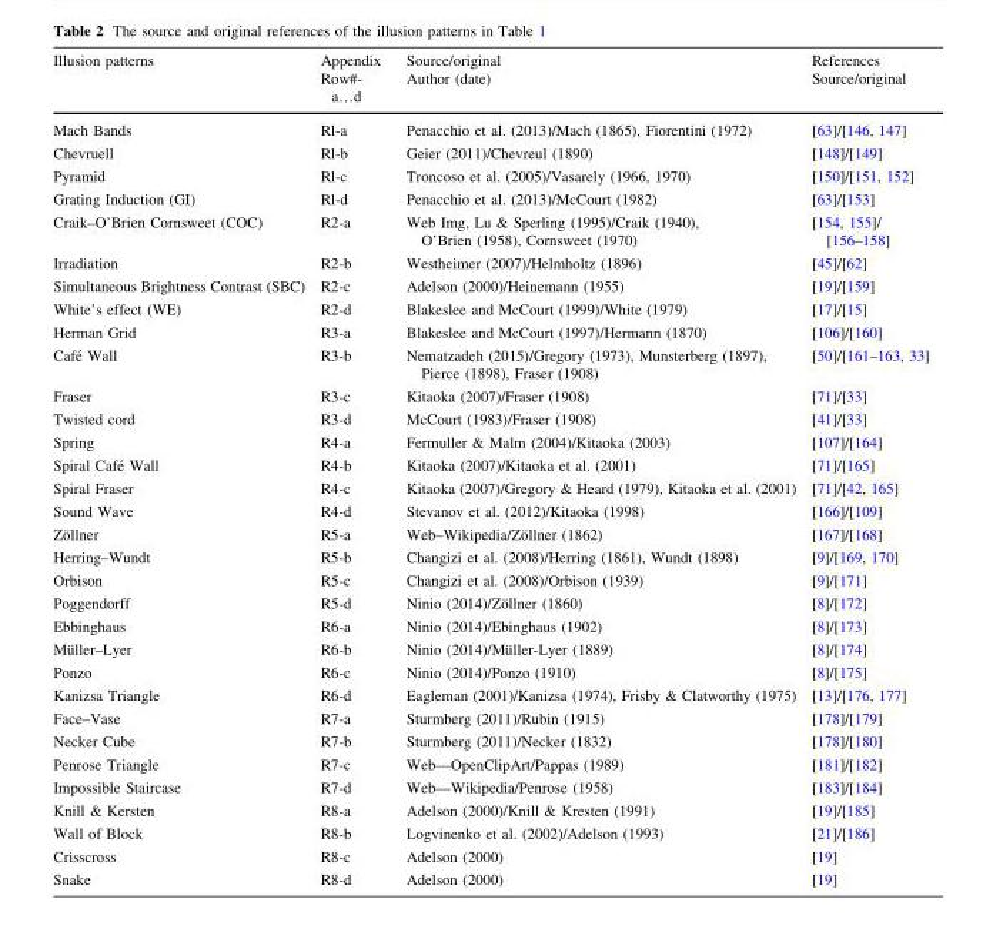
<table><thead><tr><td>Illusion patterns</td><td>Appendix Row#- a…d</td><td>Source/original Author (date)</td><td>References Source/original</td></tr></thead><tbody><tr><td>Mach Bands</td><td>Rl-a</td><td>Penacchio et al. (2013)/Mach (1865), Fiorentini (1972)</td><td>[63]/[146, 147]</td></tr><tr><td>Chevruell</td><td>Rl-b</td><td>Geier (2011)/Chevreul (1890)</td><td>[148]/[149]</td></tr><tr><td>Pyramid</td><td>Rl-c</td><td>Troncoso et al. (2005)/Vasarely (1966, 1970)</td><td>[150]/[151, 152]</td></tr><tr><td>Grating Induction (GI)</td><td>Rl-d</td><td>Penacchio et al. (2013)/McCourt (1982)</td><td>[63]/[153]</td></tr><tr><td>Craik–O’Brien Cornsweet (COC)</td><td>R2-a</td><td>Web Img, Lu &amp; Sperling (1995)/Craik (1940), O’Brien (1958), Cornsweet (1970)</td><td>[154, 155]/ [156–158]</td></tr><tr><td>Irradiation</td><td>R2-b</td><td>Westheimer (2007)/Helmholtz (1896)</td><td>[45]/[62]</td></tr><tr><td>Simultaneous Brightness Contrast (SBC)</td><td>R2-c</td><td>Adelson (2000)/Heinemann (1955)</td><td>[19]/[159]</td></tr><tr><td>White’s effect (WE)</td><td>R2-d</td><td>Blakeslee and McCourt (1999)/White (1979)</td><td>[17]/[15]</td></tr><tr><td>Herman Grid</td><td>R3-a</td><td>Blakeslee and McCourt (1997)/Hermann (1870)</td><td>[106]/[160]</td></tr><tr><td>Cafe´ Wall</td><td>R3-b</td><td>Nematzadeh (2015)/Gregory (1973), Munsterberg (1897), Pierce (1898), Fraser (1908)</td><td>[50]/[161–163, 33]</td></tr><tr><td>Fraser</td><td>R3-c</td><td>Kitaoka (2007)/Fraser (1908)</td><td>[71]/[33]</td></tr><tr><td>Twisted cord</td><td>R3-d</td><td>McCourt (1983)/Fraser (1908)</td><td>[41]/[33]</td></tr><tr><td>Spring</td><td>R4-a</td><td>Fermuller &amp; Malm (2004)/Kitaoka (2003)</td><td>[107]/[164]</td></tr><tr><td>Spiral Cafe´ Wall</td><td>R4-b</td><td>Kitaoka (2007)/Kitaoka et al. (2001)</td><td>[71]/[165]</td></tr><tr><td>Spiral Fraser</td><td>R4-c</td><td>Kitaoka (2007)/Gregory &amp; Heard (1979), Kitaoka et al. (2001)</td><td>[71]/[42, 165]</td></tr><tr><td>Sound Wave</td><td>R4-d</td><td>Stevanov et al. (2012)/Kitaoka (1998)</td><td>[166]/[109]</td></tr><tr><td>Zo¨llner</td><td>R5-a</td><td>Web–Wikipedia/Zo¨llner (1862)</td><td>[167]/[168]</td></tr><tr><td>Herring–Wundt</td><td>R5-b</td><td>Changizi et al. (2008)/Herring (1861), Wundt (1898)</td><td>[9]/[169, 170]</td></tr><tr><td>Orbison</td><td>R5-c</td><td>Changizi et al. (2008)/Orbison (1939)</td><td>[9]/[171]</td></tr><tr><td>Poggendorff</td><td>R5-d</td><td>Ninio (2014)/Zo¨llner (1860)</td><td>[8]/[172]</td></tr><tr><td>Ebbinghaus</td><td>R6-a</td><td>Ninio (2014)/Ebinghaus (1902)</td><td>[8]/[173]</td></tr><tr><td>Mu¨ller–Lyer</td><td>R6-b</td><td>Ninio (2014)/Mu¨ller-Lyer (1889)</td><td>[8]/[174]</td></tr><tr><td>Ponzo</td><td>R6-c</td><td>Ninio (2014)/Ponzo (1910)</td><td>[8]/[175]</td></tr><tr><td>Kanizsa Triangle</td><td>R6-d</td><td>Eagleman (2001)/Kanizsa (1974), Frisby &amp; Clatworthy (1975)</td><td>[13]/[176, 177]</td></tr><tr><td>Face–Vase</td><td>R7-a</td><td>Sturmberg (2011)/Rubin (1915)</td><td>[178]/[179]</td></tr><tr><td>Necker Cube</td><td>R7-b</td><td>Sturmberg (2011)/Necker (1832)</td><td>[178]/[180]</td></tr><tr><td>Penrose Triangle</td><td>R7-c</td><td>Web—OpenClipArt/Pappas (1989)</td><td>[181]/[182]</td></tr><tr><td>Impossible Staircase</td><td>R7-d</td><td>Web—Wikipedia/Penrose (1958)</td><td>[183]/[184]</td></tr><tr><td>Knill &amp; Kersten</td><td>R8-a</td><td>Adelson (2000)/Knill &amp; Kresten (1991)</td><td>[19]/[185]</td></tr><tr><td>Wall of Block</td><td>R8-b</td><td>Logvinenko et al. (2002)/Adelson (1993)</td><td>[21]/[186]</td></tr><tr><td>Crisscross</td><td>R8-c</td><td>Adelson (2000)</td><td>[19]</td></tr><tr><td>Snake</td><td>R8-d</td><td>Adelson (2000)</td><td>[19]</td></tr></tbody></table>